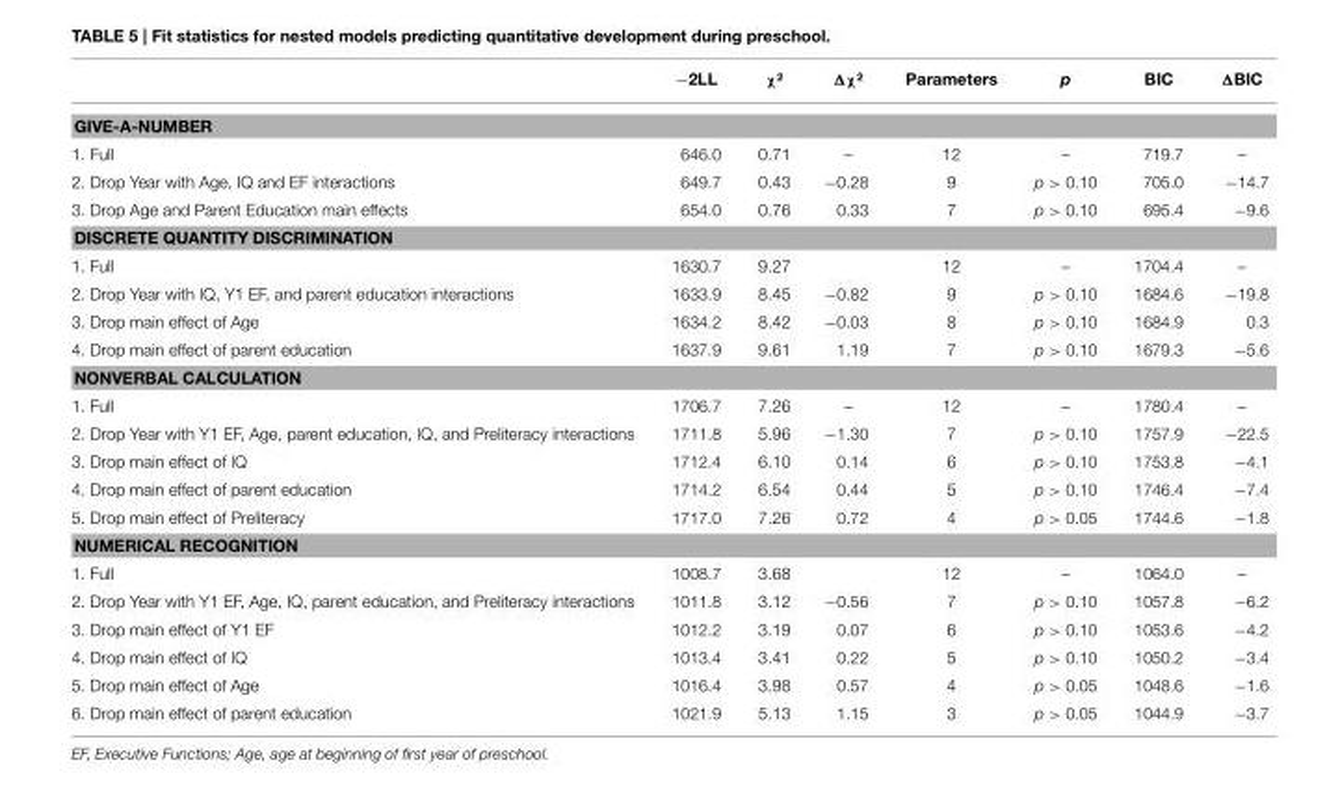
<table><thead><tr><td></td><td>−2LL</td><td>χ²</td><td>Δχ²</td><td>Parameters</td><td>p</td><td>BIC</td><td>ΔBIC</td></tr></thead><tbody><tr><td colspan="8">GIVE-A-NUMBER</td></tr><tr><td>1. Full</td><td>646.0</td><td>0.71</td><td>–</td><td>12</td><td>–</td><td>719.7</td><td>–</td></tr><tr><td>2. Drop Year with Age, IQ and EF interactions</td><td>649.7</td><td>0.43</td><td>−0.28</td><td>9</td><td>p &gt; 0.10</td><td>705.0</td><td>−14.7</td></tr><tr><td>3. Drop Age and Parent Education main effects</td><td>654.0</td><td>0.76</td><td>0.33</td><td>7</td><td>p &gt; 0.10</td><td>695.4</td><td>−9.6</td></tr><tr><td colspan="8">DISCRETE QUANTITY DISCRIMINATION</td></tr><tr><td>1. Full</td><td>1630.7</td><td>9.27</td><td></td><td>12</td><td>–</td><td>1704.4</td><td>–</td></tr><tr><td>2. Drop Year with IQ, Y1 EF, and parent education interactions</td><td>1633.9</td><td>8.45</td><td>−0.82</td><td>9</td><td>p &gt; 0.10</td><td>1684.6</td><td>−19.8</td></tr><tr><td>3. Drop main effect of Age</td><td>1634.2</td><td>8.42</td><td>−0.03</td><td>8</td><td>p &gt; 0.10</td><td>1684.9</td><td>0.3</td></tr><tr><td>4. Drop main effect of parent education</td><td>1637.9</td><td>9.61</td><td>1.19</td><td>7</td><td>p &gt; 0.10</td><td>1679.3</td><td>−5.6</td></tr><tr><td colspan="8">NONVERBAL CALCULATION</td></tr><tr><td>1. Full</td><td>1706.7</td><td>7.26</td><td>–</td><td>12</td><td>–</td><td>1780.4</td><td>–</td></tr><tr><td>2. Drop Year with Y1 EF, Age, parent education, IQ, and Preliteracy interactions</td><td>1711.8</td><td>5.96</td><td>−1.30</td><td>7</td><td>p &gt; 0.10</td><td>1757.9</td><td>−22.5</td></tr><tr><td>3. Drop main effect of IQ</td><td>1712.4</td><td>6.10</td><td>0.14</td><td>6</td><td>p &gt; 0.10</td><td>1753.8</td><td>−4.1</td></tr><tr><td>4. Drop main effect of parent education</td><td>1714.2</td><td>6.54</td><td>0.44</td><td>5</td><td>p &gt; 0.10</td><td>1746.4</td><td>−7.4</td></tr><tr><td>5. Drop main effect of Preliteracy</td><td>1717.0</td><td>7.26</td><td>0.72</td><td>4</td><td>p &gt; 0.05</td><td>1744.6</td><td>−1.8</td></tr><tr><td colspan="8">NUMERICAL RECOGNITION</td></tr><tr><td>1. Full</td><td>1008.7</td><td>3.68</td><td></td><td>12</td><td>–</td><td>1064.0</td><td>–</td></tr><tr><td>2. Drop Year with Y1 EF, Age, IQ, parent education, and Preliteracy interactions</td><td>1011.8</td><td>3.12</td><td>−0.56</td><td>7</td><td>p &gt; 0.10</td><td>1057.8</td><td>−6.2</td></tr><tr><td>3. Drop main effect of Y1 EF</td><td>1012.2</td><td>3.19</td><td>0.07</td><td>6</td><td>p &gt; 0.10</td><td>1053.6</td><td>−4.2</td></tr><tr><td>4. Drop main effect of IQ</td><td>1013.4</td><td>3.41</td><td>0.22</td><td>5</td><td>p &gt; 0.10</td><td>1050.2</td><td>−3.4</td></tr><tr><td>5. Drop main effect of Age</td><td>1016.4</td><td>3.98</td><td>0.57</td><td>4</td><td>p &gt; 0.05</td><td>1048.6</td><td>−1.6</td></tr><tr><td>6. Drop main effect of parent education</td><td>1021.9</td><td>5.13</td><td>1.15</td><td>3</td><td>p &gt; 0.05</td><td>1044.9</td><td>−3.7</td></tr></tbody></table>